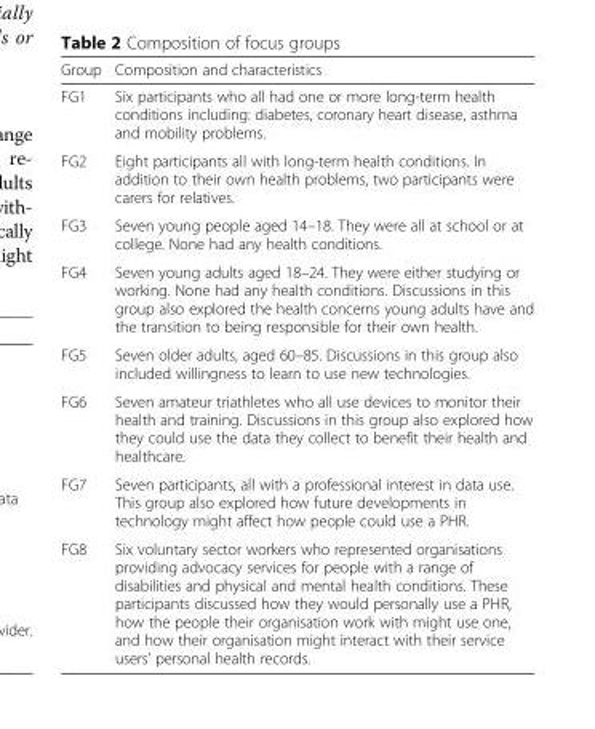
<table><thead><tr><td>Group</td><td>Composition and characteristics</td></tr></thead><tbody><tr><td>FG1</td><td>Six participants who all had one or more long-term health conditions including: diabetes, coronary heart disease, asthma and mobility problems.</td></tr><tr><td>FG2</td><td>Eight participants all with long-term health conditions. In addition to their own health problems, two participants were carers for relatives.</td></tr><tr><td>FG3</td><td>Seven young people aged 14–18. They were all at school or at college. None had any health conditions.</td></tr><tr><td>FG4</td><td>Seven young adults aged 18–24. They were either studying or working. None had any health conditions. Discussions in this group also explored the health concerns young adults have and the transition to being responsible for their own health.</td></tr><tr><td>FG5</td><td>Seven older adults, aged 60–85. Discussions in this group also included willingness to learn to use new technologies.</td></tr><tr><td>FG6</td><td>Seven amateur triathletes who all use devices to monitor their health and training. Discussions in this group also explored how they could use the data they collect to benefit their health and healthcare.</td></tr><tr><td>FG7</td><td>Seven participants, all with a professional interest in data use. This group also explored how future developments in technology might affect how people could use a PHR.</td></tr><tr><td>FG8</td><td>Six voluntary sector workers who represented organisations providing advocacy services for people with a range of disabilities and physical and mental health conditions. These participants discussed how they would personally use a PHR, how the people their organisation work with might use one, and how their organisation might interact with their service users’ personal health records.</td></tr></tbody></table>